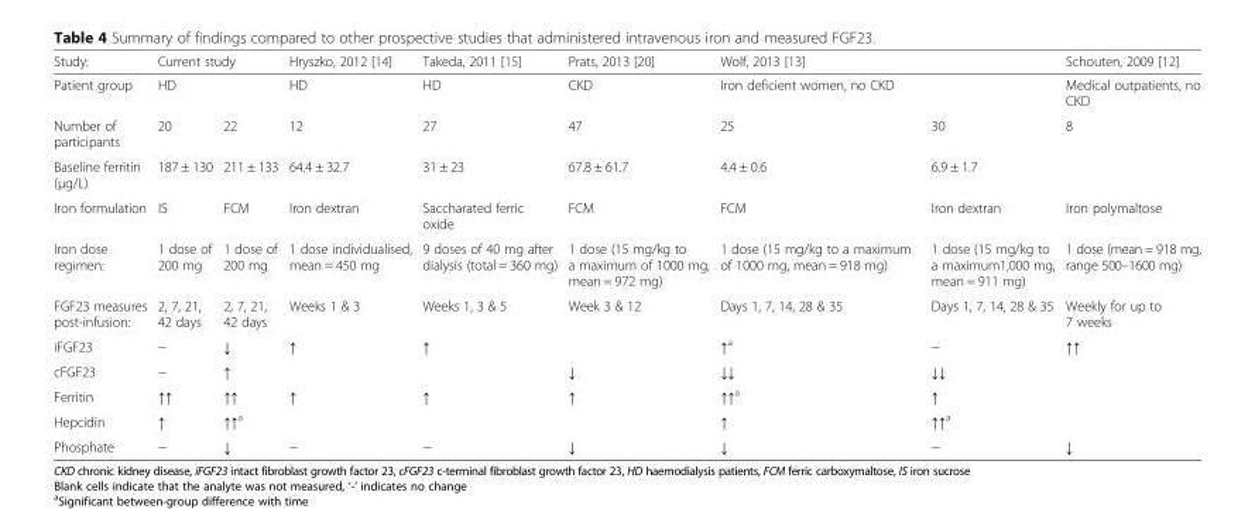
<table><thead><tr><td rowspan="3">Study: Patient group Number of participants</td><td rowspan="2" colspan="2">Current study HD</td><td rowspan="3">Hryszko, 2012 [14] HD 12</td><td rowspan="3">Takeda, 2011 [15] HD 27</td><td rowspan="3">Prats, 2013 [20] CKD 47</td><td rowspan="2" colspan="2">Wolf, 2013 [13] Iron deficient women, no CKD</td><td rowspan="3">Schouten, 2009 [12] Medical outpatients, no CKD 8</td></tr><tr></tr><tr><td>20</td><td>22</td><td>25</td><td>30</td></tr></thead><tbody><tr><td>Baseline ferritin (μg/L)</td><td>187 ± 130</td><td>211 ± 133</td><td>64.4 ± 32.7</td><td>31 ± 23</td><td>67.8 ± 61.7</td><td>4.4 ± 0.6</td><td>6.9 ± 1.7</td><td></td></tr><tr><td>Iron formulation</td><td>IS</td><td>FCM</td><td>Iron dextran</td><td>Saccharated ferric oxide</td><td>FCM</td><td>FCM</td><td>Iron dextran</td><td>Iron polymaltose</td></tr><tr><td>Iron dose regimen:</td><td>1 dose of 200 mg</td><td>1 dose of 200 mg</td><td>1 dose individualised, mean = 450 mg</td><td>9 doses of 40 mg after dialysis (total = 360 mg)</td><td>1 dose (15 mg/kg to a maximum of 1000 mg, mean = 972 mg)</td><td>1 dose (15 mg/kg to a maximum of 1000 mg, mean = 918 mg)</td><td>1 dose (15 mg/kg to a maximum1,000 mg, mean = 911 mg)</td><td>1 dose (mean = 918 mg, range 500–1600 mg)</td></tr><tr><td>FGF23 measures post-infusion:</td><td>2, 7, 21, 42 days</td><td>2, 7, 21, 42 days</td><td>Weeks 1 &amp; 3</td><td>Weeks 1, 3 &amp; 5</td><td>Week 3 &amp; 12</td><td>Days 1, 7, 14, 28 &amp; 35</td><td>Days 1, 7, 14, 28 &amp; 35</td><td>Weekly for up to 7 weeks</td></tr><tr><td>iFGF23</td><td>−</td><td>↓</td><td>↑</td><td>↑</td><td></td><td>↑<sup>a</sup></td><td>−</td><td>↑↑</td></tr><tr><td>cFGF23</td><td>−</td><td>↑</td><td></td><td></td><td>↓</td><td>↓↓</td><td>↓↓</td><td></td></tr><tr><td>Ferritin</td><td>↑↑</td><td>↑↑</td><td>↑</td><td>↑</td><td>↑</td><td>↑↑<sup>a</sup></td><td>↑</td><td></td></tr><tr><td>Hepcidin</td><td>↑</td><td>↑↑<sup>a</sup></td><td></td><td></td><td></td><td>↑</td><td>↑↑<sup>a</sup></td><td></td></tr><tr><td>Phosphate</td><td>−</td><td>↓</td><td>−</td><td>−</td><td>↓</td><td>↓</td><td>−</td><td>↓</td></tr></tbody></table>